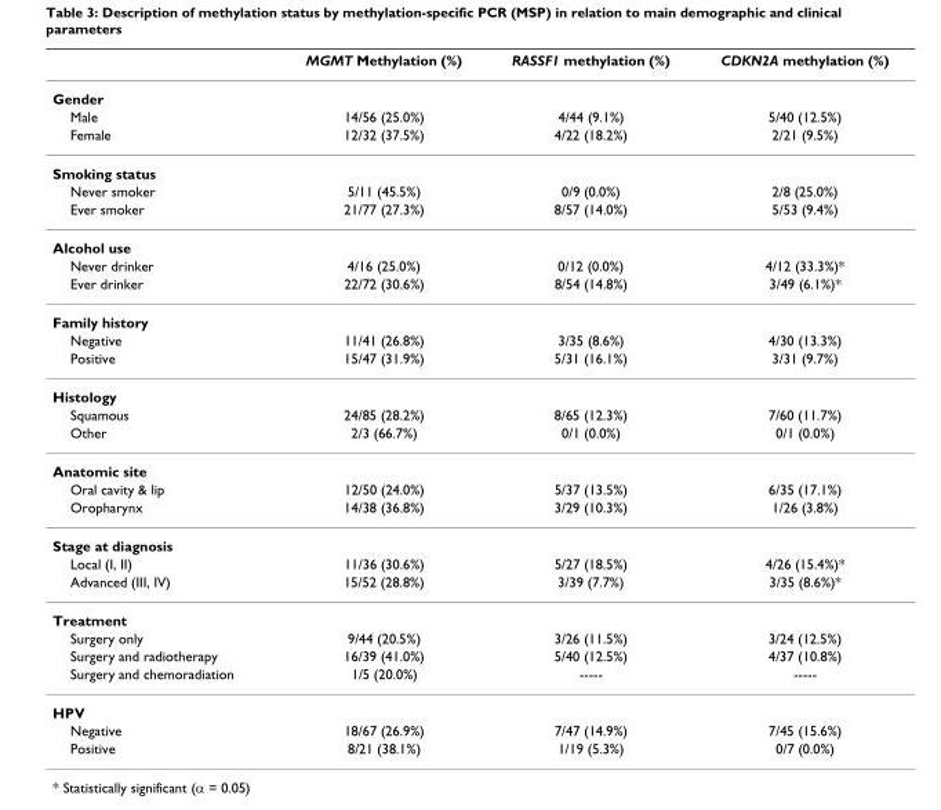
<table><thead><tr><td></td><td>MGMT Methylation (%)</td><td>RASSF1 methylation (%)</td><td>CDKN2A methylation (%)</td></tr></thead><tbody><tr><td colspan="4">Gender</td></tr><tr><td>Male</td><td>14/56 (25.0%)</td><td>4/44 (9.1%)</td><td>5/40 (12.5%)</td></tr><tr><td>Female</td><td>12/32 (37.5%)</td><td>4/22 (18.2%)</td><td>2/21 (9.5%)</td></tr><tr><td colspan="4">Smoking status</td></tr><tr><td>Never smoker</td><td>5/11 (45.5%)</td><td>0/9 (0.0%)</td><td>2/8 (25.0%)</td></tr><tr><td>Ever smoker</td><td>21/77 (27.3%)</td><td>8/57 (14.0%)</td><td>5/53 (9.4%)</td></tr><tr><td colspan="4">Alcohol use</td></tr><tr><td>Never drinker</td><td>4/16 (25.0%)</td><td>0/12 (0.0%)</td><td>4/12 (33.3%)*</td></tr><tr><td>Ever drinker</td><td>22/72 (30.6%)</td><td>8/54 (14.8%)</td><td>3/49 (6.1%)*</td></tr><tr><td colspan="4">Family history</td></tr><tr><td>Negative</td><td>11/41 (26.8%)</td><td>3/35 (8.6%)</td><td>4/30 (13.3%)</td></tr><tr><td>Positive</td><td>15/47 (31.9%)</td><td>5/31 (16.1%)</td><td>3/31 (9.7%)</td></tr><tr><td colspan="4">Histology</td></tr><tr><td>Squamous</td><td>24/85 (28.2%)</td><td>8/65 (12.3%)</td><td>7/60 (11.7%)</td></tr><tr><td>Other</td><td>2/3 (66.7%)</td><td>0/1 (0.0%)</td><td>0/1 (0.0%)</td></tr><tr><td colspan="4">Anatomic site</td></tr><tr><td>Oral cavity &amp; lip</td><td>12/50 (24.0%)</td><td>5/37 (13.5%)</td><td>6/35 (17.1%)</td></tr><tr><td>Oropharynx</td><td>14/38 (36.8%)</td><td>3/29 (10.3%)</td><td>1/26 (3.8%)</td></tr><tr><td colspan="4">Stage at diagnosis</td></tr><tr><td>Local (I, II)</td><td>11/36 (30.6%)</td><td>5/27 (18.5%)</td><td>4/26 (15.4%)*</td></tr><tr><td>Advanced (III, IV)</td><td>15/52 (28.8%)</td><td>3/39 (7.7%)</td><td>3/35 (8.6%)*</td></tr><tr><td colspan="4">Treatment</td></tr><tr><td>Surgery only</td><td>9/44 (20.5%)</td><td>3/26 (11.5%)</td><td>3/24 (12.5%)</td></tr><tr><td>Surgery and radiotherapy</td><td>16/39 (41.0%)</td><td>5/40 (12.5%)</td><td>4/37 (10.8%)</td></tr><tr><td>Surgery and chemoradiation</td><td>1/5 (20.0%)</td><td>-----</td><td>-----</td></tr><tr><td colspan="4">HPV</td></tr><tr><td>Negative</td><td>18/67 (26.9%)</td><td>7/47 (14.9%)</td><td>7/45 (15.6%)</td></tr><tr><td>Positive</td><td>8/21 (38.1%)</td><td>1/19 (5.3%)</td><td>0/7 (0.0%)</td></tr></tbody></table>